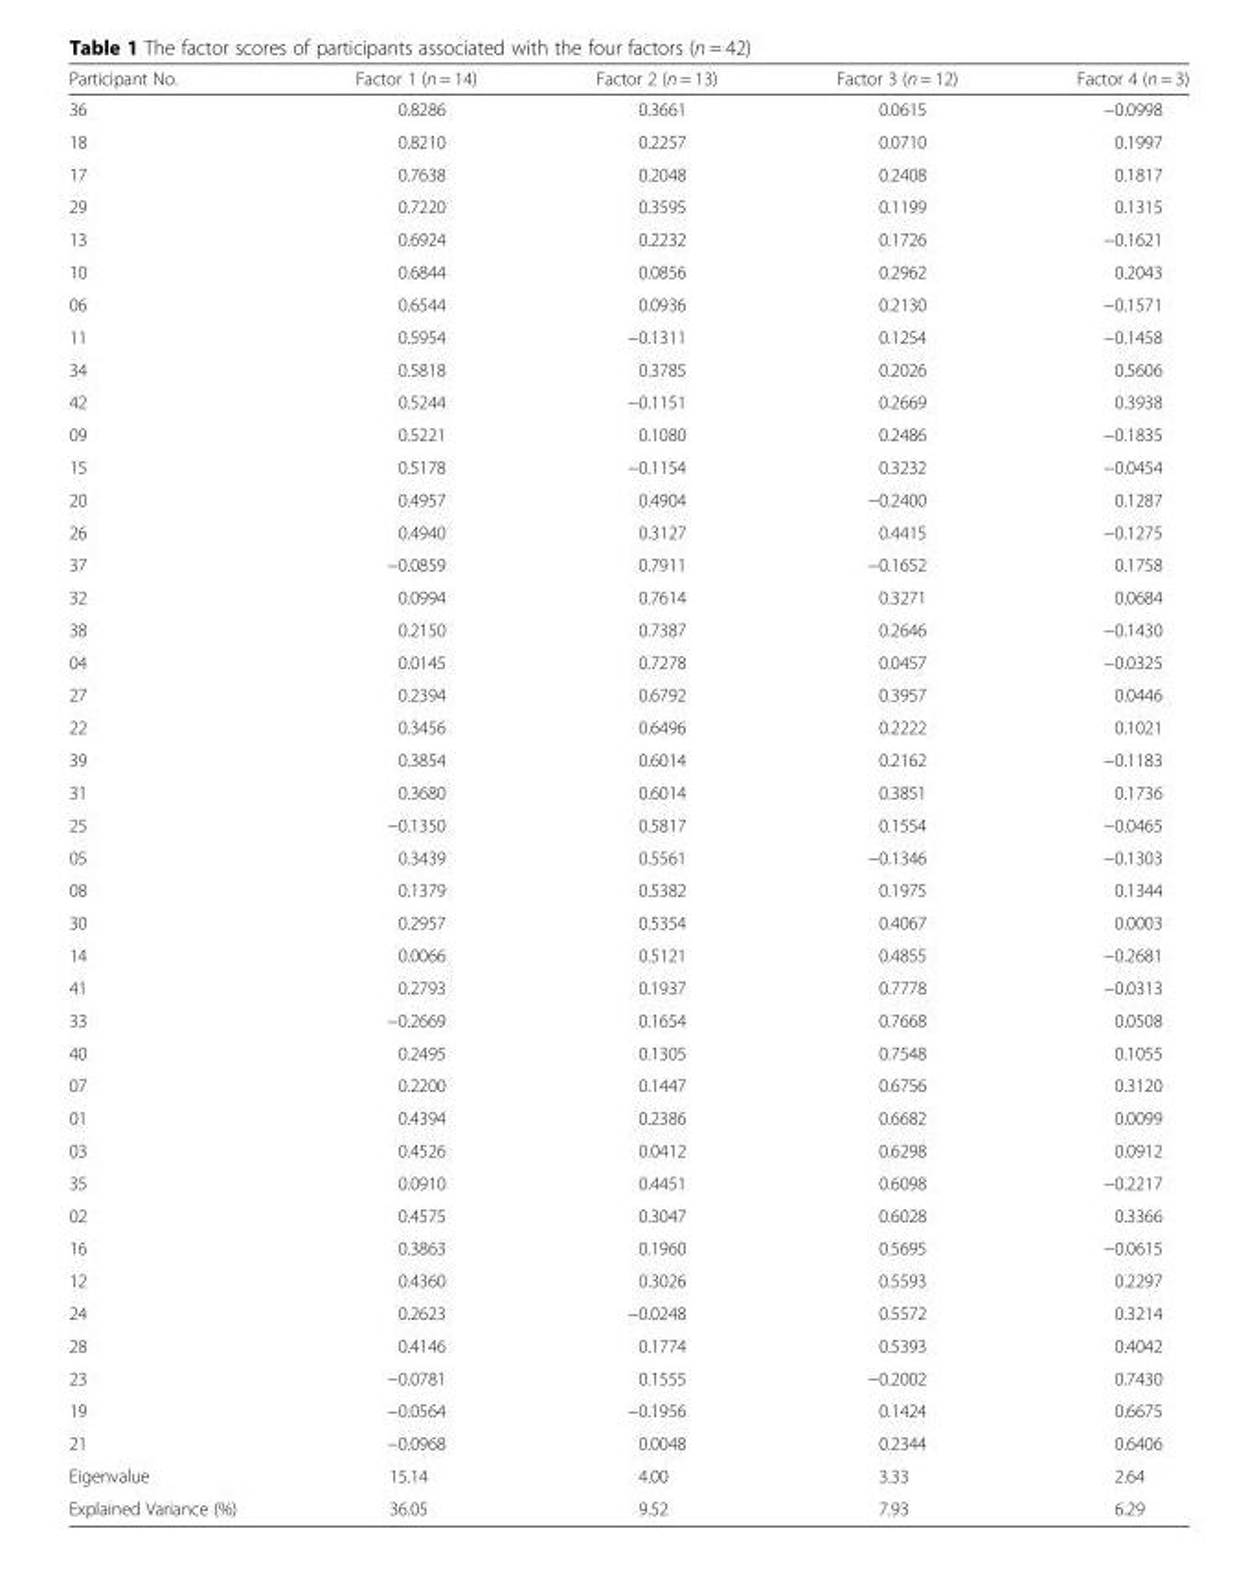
<table><thead><tr><td>Participant No.</td><td>Factor 1 (n = 14)</td><td>Factor 2 (n = 13)</td><td>Factor 3 (n = 12)</td><td>Factor 4 (n = 3)</td></tr></thead><tbody><tr><td>36</td><td>0.8286</td><td>0.3661</td><td>0.0615</td><td>−0.0998</td></tr><tr><td>18</td><td>0.8210</td><td>0.2257</td><td>0.0710</td><td>0.1997</td></tr><tr><td>17</td><td>0.7638</td><td>0.2048</td><td>0.2408</td><td>0.1817</td></tr><tr><td>29</td><td>0.7220</td><td>0.3595</td><td>0.1199</td><td>0.1315</td></tr><tr><td>13</td><td>0.6924</td><td>0.2232</td><td>0.1726</td><td>−0.1621</td></tr><tr><td>10</td><td>0.6844</td><td>0.0856</td><td>0.2962</td><td>0.2043</td></tr><tr><td>06</td><td>0.6544</td><td>0.0936</td><td>0.2130</td><td>−0.1571</td></tr><tr><td>11</td><td>0.5954</td><td>−0.1311</td><td>0.1254</td><td>−0.1458</td></tr><tr><td>34</td><td>0.5818</td><td>0.3785</td><td>0.2026</td><td>0.5606</td></tr><tr><td>42</td><td>0.5244</td><td>−0.1151</td><td>0.2669</td><td>0.3938</td></tr><tr><td>09</td><td>0.5221</td><td>0.1080</td><td>0.2486</td><td>−0.1835</td></tr><tr><td>15</td><td>0.5178</td><td>−0.1154</td><td>0.3232</td><td>−0.0454</td></tr><tr><td>20</td><td>0.4957</td><td>0.4904</td><td>−0.2400</td><td>0.1287</td></tr><tr><td>26</td><td>0.4940</td><td>0.3127</td><td>0.4415</td><td>−0.1275</td></tr><tr><td>37</td><td>−0.0859</td><td>0.7911</td><td>−0.1652</td><td>0.1758</td></tr><tr><td>32</td><td>0.0994</td><td>0.7614</td><td>0.3271</td><td>0.0684</td></tr><tr><td>38</td><td>0.2150</td><td>0.7387</td><td>0.2646</td><td>−0.1430</td></tr><tr><td>04</td><td>0.0145</td><td>0.7278</td><td>0.0457</td><td>−0.0325</td></tr><tr><td>27</td><td>0.2394</td><td>0.6792</td><td>0.3957</td><td>0.0446</td></tr><tr><td>22</td><td>0.3456</td><td>0.6496</td><td>0.2222</td><td>0.1021</td></tr><tr><td>39</td><td>0.3854</td><td>0.6014</td><td>0.2162</td><td>−0.1183</td></tr><tr><td>31</td><td>0.3680</td><td>0.6014</td><td>0.3851</td><td>0.1736</td></tr><tr><td>25</td><td>−0.1350</td><td>0.5817</td><td>0.1554</td><td>−0.0465</td></tr><tr><td>05</td><td>0.3439</td><td>0.5561</td><td>−0.1346</td><td>−0.1303</td></tr><tr><td>08</td><td>0.1379</td><td>0.5382</td><td>0.1975</td><td>0.1344</td></tr><tr><td>30</td><td>0.2957</td><td>0.5354</td><td>0.4067</td><td>0.0003</td></tr><tr><td>14</td><td>0.0066</td><td>0.5121</td><td>0.4855</td><td>−0.2681</td></tr><tr><td>41</td><td>0.2793</td><td>0.1937</td><td>0.7778</td><td>−0.0313</td></tr><tr><td>33</td><td>−0.2669</td><td>0.1654</td><td>0.7668</td><td>0.0508</td></tr><tr><td>40</td><td>0.2495</td><td>0.1305</td><td>0.7548</td><td>0.1055</td></tr><tr><td>07</td><td>0.2200</td><td>0.1447</td><td>0.6756</td><td>0.3120</td></tr><tr><td>01</td><td>0.4394</td><td>0.2386</td><td>0.6682</td><td>0.0099</td></tr><tr><td>03</td><td>0.4526</td><td>0.0412</td><td>0.6298</td><td>0.0912</td></tr><tr><td>35</td><td>0.0910</td><td>0.4451</td><td>0.6098</td><td>−0.2217</td></tr><tr><td>02</td><td>0.4575</td><td>0.3047</td><td>0.6028</td><td>0.3366</td></tr><tr><td>16</td><td>0.3863</td><td>0.1960</td><td>0.5695</td><td>−0.0615</td></tr><tr><td>12</td><td>0.4360</td><td>0.3026</td><td>0.5593</td><td>0.2297</td></tr><tr><td>24</td><td>0.2623</td><td>−0.0248</td><td>0.5572</td><td>0.3214</td></tr><tr><td>28</td><td>0.4146</td><td>0.1774</td><td>0.5393</td><td>0.4042</td></tr><tr><td>23</td><td>−0.0781</td><td>0.1555</td><td>−0.2002</td><td>0.7430</td></tr><tr><td>19</td><td>−0.0564</td><td>−0.1956</td><td>0.1424</td><td>0.6675</td></tr><tr><td>21</td><td>−0.0968</td><td>0.0048</td><td>0.2344</td><td>0.6406</td></tr><tr><td>Eigenvalue</td><td>15.14</td><td>4.00</td><td>3.33</td><td>2.64</td></tr><tr><td>Explained Variance (%)</td><td>36.05</td><td>9.52</td><td>7.93</td><td>6.29</td></tr></tbody></table>